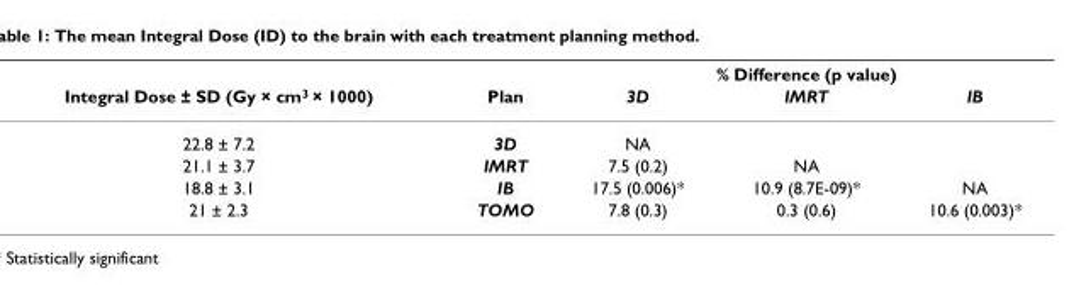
<table><thead><tr><td rowspan="2">Integral Dose ± SD (Gy × cm<sup>3</sup> × 1000)</td><td rowspan="2">Plan</td><td colspan="3">% Difference (p value)</td></tr><tr><td>3D</td><td>IMRT</td><td>IB</td></tr></thead><tbody><tr><td>22.8 ± 7.2</td><td>3D</td><td>NA</td><td></td><td></td></tr><tr><td>21.1 ± 3.7</td><td>IMRT</td><td>7.5 (0.2)</td><td>NA</td><td></td></tr><tr><td>18.8 ± 3.1</td><td>IB</td><td>17.5 (0.006)*</td><td>10.9 (8.7E-09)*</td><td>NA</td></tr><tr><td>21 ± 2.3</td><td>TOMO</td><td>7.8 (0.3)</td><td>0.3 (0.6)</td><td>10.6 (0.003)*</td></tr></tbody></table>